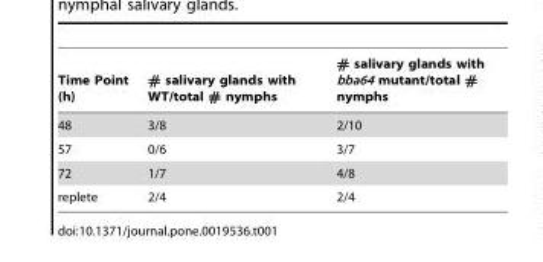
<table><thead><tr><td>Time Point (h)</td><td># salivary glands with WT/total # nymphs</td><td># salivary glands with bba64 mutant/total # nymphs</td></tr></thead><tbody><tr><td>48</td><td>3/8</td><td>2/10</td></tr><tr><td>57</td><td>0/6</td><td>3/7</td></tr><tr><td>72</td><td>1/7</td><td>4/8</td></tr><tr><td>replete</td><td>2/4</td><td>2/4</td></tr></tbody></table>